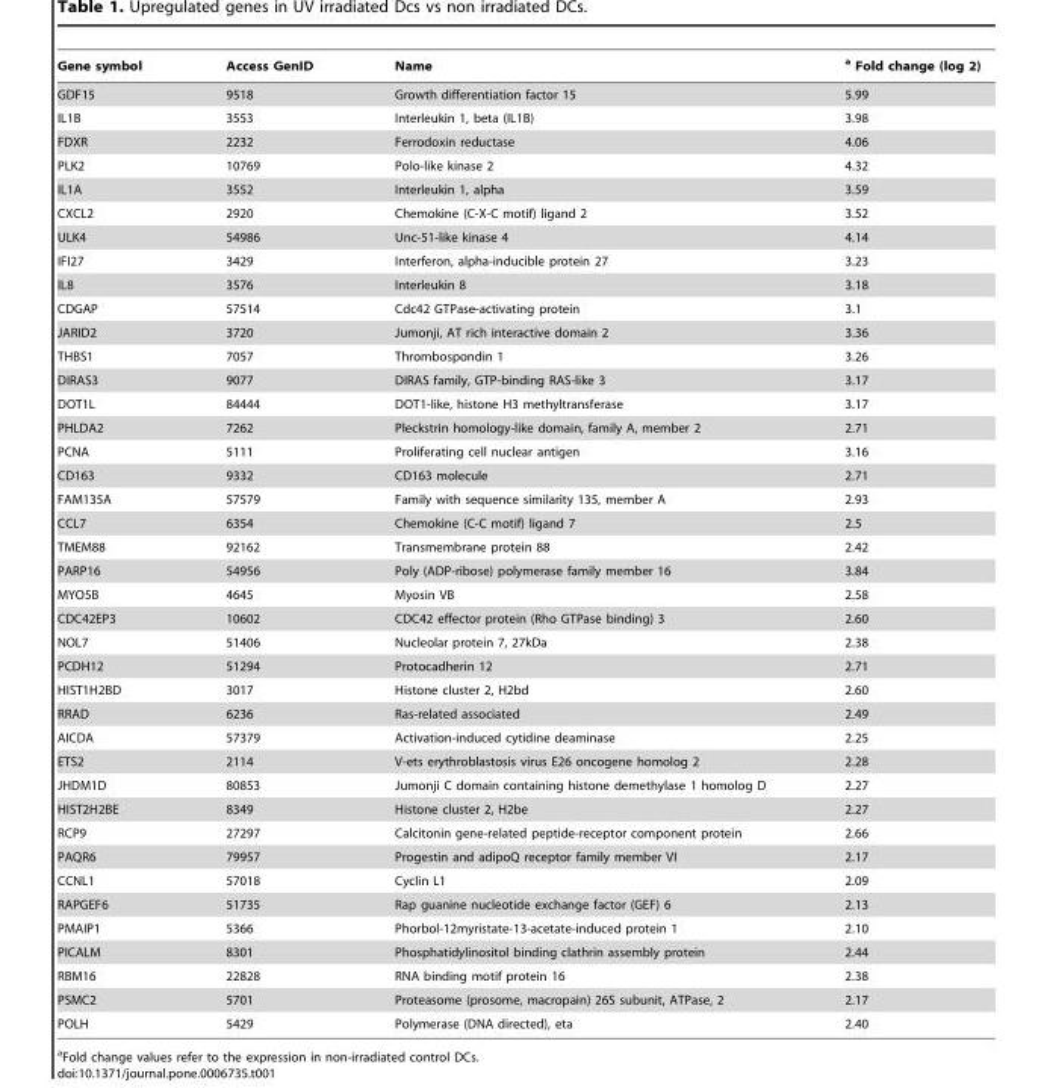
<table><thead><tr><td>Gene symbol</td><td>Access GenID</td><td>Name</td><td>a Fold change (log 2)</td></tr></thead><tbody><tr><td>GDF15</td><td>9518</td><td>Growth differentiation factor 15</td><td>5.99</td></tr><tr><td>IL1B</td><td>3553</td><td>Interleukin 1, beta (IL1B)</td><td>3.98</td></tr><tr><td>FDXR</td><td>2232</td><td>Ferrodoxin reductase</td><td>4.06</td></tr><tr><td>PLK2</td><td>10769</td><td>Polo-like kinase 2</td><td>4.32</td></tr><tr><td>IL1A</td><td>3552</td><td>Interleukin 1, alpha</td><td>3.59</td></tr><tr><td>CXCL2</td><td>2920</td><td>Chemokine (C-X-C motif) ligand 2</td><td>3.52</td></tr><tr><td>ULK4</td><td>54986</td><td>Unc-51-like kinase 4</td><td>4.14</td></tr><tr><td>IFI27</td><td>3429</td><td>Interferon, alpha-inducible protein 27</td><td>3.23</td></tr><tr><td>IL8</td><td>3576</td><td>Interleukin 8</td><td>3.18</td></tr><tr><td>CDGAP</td><td>57514</td><td>Cdc42 GTPase-activating protein</td><td>3.1</td></tr><tr><td>JARID2</td><td>3720</td><td>Jumonji, AT rich interactive domain 2</td><td>3.36</td></tr><tr><td>THBS1</td><td>7057</td><td>Thrombospondin 1</td><td>3.26</td></tr><tr><td>DIRAS3</td><td>9077</td><td>DIRAS family, GTP-binding RAS-like 3</td><td>3.17</td></tr><tr><td>DOT1L</td><td>84444</td><td>DOT1-like, histone H3 methyltransferase</td><td>3.17</td></tr><tr><td>PHLDA2</td><td>7262</td><td>Pleckstrin homology-like domain, family A, member 2</td><td>2.71</td></tr><tr><td>PCNA</td><td>5111</td><td>Proliferating cell nuclear antigen</td><td>3.16</td></tr><tr><td>CD163</td><td>9332</td><td>CD163 molecule</td><td>2.71</td></tr><tr><td>FAM135A</td><td>57579</td><td>Family with sequence similarity 135, member A</td><td>2.93</td></tr><tr><td>CCL7</td><td>6354</td><td>Chemokine (C-C motif) ligand 7</td><td>2.5</td></tr><tr><td>TMEM88</td><td>92162</td><td>Transmembrane protein 88</td><td>2.42</td></tr><tr><td>PARP16</td><td>54956</td><td>Poly (ADP-ribose) polymerase family member 16</td><td>3.84</td></tr><tr><td>MYO5B</td><td>4645</td><td>Myosin VB</td><td>2.58</td></tr><tr><td>CDC42EP3</td><td>10602</td><td>CDC42 effector protein (Rho GTPase binding) 3</td><td>2.60</td></tr><tr><td>NOL7</td><td>51406</td><td>Nucleolar protein 7, 27kDa</td><td>2.38</td></tr><tr><td>PCDH12</td><td>51294</td><td>Protocadherin 12</td><td>2.71</td></tr><tr><td>HIST1H2BD</td><td>3017</td><td>Histone cluster 2, H2bd</td><td>2.60</td></tr><tr><td>RRAD</td><td>6236</td><td>Ras-related associated</td><td>2.49</td></tr><tr><td>AICDA</td><td>57379</td><td>Activation-induced cytidine deaminase</td><td>2.25</td></tr><tr><td>ETS2</td><td>2114</td><td>V-ets erythroblastosis virus E26 oncogene homolog 2</td><td>2.28</td></tr><tr><td>JHDM1D</td><td>80853</td><td>Jumonji C domain containing histone demethylase 1 homolog D</td><td>2.27</td></tr><tr><td>HIST2H2BE</td><td>8349</td><td>Histone cluster 2, H2be</td><td>2.27</td></tr><tr><td>RCP9</td><td>27297</td><td>Calcitonin gene-related peptide-receptor component protein</td><td>2.66</td></tr><tr><td>PAQR6</td><td>79957</td><td>Progestin and adipoQ receptor family member VI</td><td>2.17</td></tr><tr><td>CCNL1</td><td>57018</td><td>Cyclin L1</td><td>2.09</td></tr><tr><td>RAPGEF6</td><td>51735</td><td>Rap guanine nucleotide exchange factor (GEF) 6</td><td>2.13</td></tr><tr><td>PMAIP1</td><td>5366</td><td>Phorbol-12myristate-13-acetate-induced protein 1</td><td>2.10</td></tr><tr><td>PICALM</td><td>8301</td><td>Phosphatidylinositol binding clathrin assembly protein</td><td>2.44</td></tr><tr><td>RBM16</td><td>22828</td><td>RNA binding motif protein 16</td><td>2.38</td></tr><tr><td>PSMC2</td><td>5701</td><td>Proteasome (prosome, macropain) 26S subunit, ATPase, 2</td><td>2.17</td></tr><tr><td>POLH</td><td>5429</td><td>Polymerase (DNA directed), eta</td><td>2.40</td></tr></tbody></table>